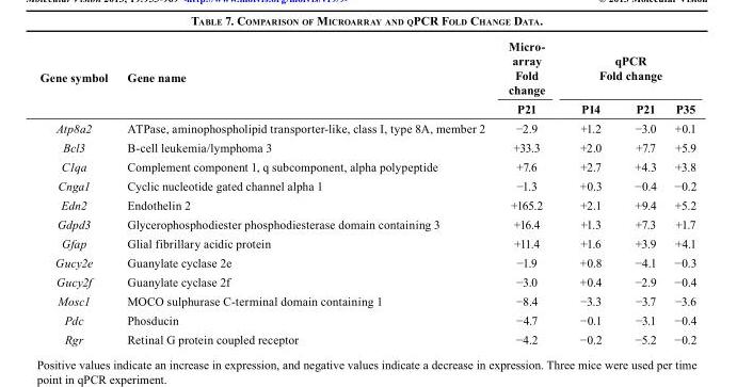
<table><thead><tr><td rowspan="2">Gene symbol</td><td rowspan="2">Gene name</td><td rowspan="2">Micro- array Fold change P21</td><td colspan="3">qPCR Fold change</td></tr><tr><td>P14</td><td>P21</td><td>P35</td></tr></thead><tbody><tr><td>Atp8a2</td><td>ATPase, aminophospholipid transporter-like, class I, type 8A, member 2</td><td>−2.9</td><td>+1.2</td><td>−3.0</td><td>+0.1</td></tr><tr><td>Bcl3</td><td>B-cell leukemia/lymphoma 3</td><td>+33.3</td><td>+2.0</td><td>+7.7</td><td>+5.9</td></tr><tr><td>C1qa</td><td>Complement component 1, q subcomponent, alpha polypeptide</td><td>+7.6</td><td>+2.7</td><td>+4.3</td><td>+3.8</td></tr><tr><td>Cnga1</td><td>Cyclic nucleotide gated channel alpha 1</td><td>−1.3</td><td>+0.3</td><td>−0.4</td><td>−0.2</td></tr><tr><td>Edn2</td><td>Endothelin 2</td><td>+165.2</td><td>+2.1</td><td>+9.4</td><td>+5.2</td></tr><tr><td>Gdpd3</td><td>Glycerophosphodiester phosphodiesterase domain containing 3</td><td>+16.4</td><td>+1.3</td><td>+7.3</td><td>+1.7</td></tr><tr><td>Gfap</td><td>Glial fibrillary acidic protein</td><td>+11.4</td><td>+1.6</td><td>+3.9</td><td>+4.1</td></tr><tr><td>Gucy2e</td><td>Guanylate cyclase 2e</td><td>−1.9</td><td>+0.8</td><td>−4.1</td><td>−0.3</td></tr><tr><td>Gucy2f</td><td>Guanylate cyclase 2f</td><td>−3.0</td><td>+0.4</td><td>−2.9</td><td>−0.4</td></tr><tr><td>Mosc1</td><td>MOCO sulphurase C-terminal domain containing 1</td><td>−8.4</td><td>−3.3</td><td>−3.7</td><td>−3.6</td></tr><tr><td>Pdc</td><td>Phosducin</td><td>−4.7</td><td>−0.1</td><td>−3.1</td><td>−0.4</td></tr><tr><td>Rgr</td><td>Retinal G protein coupled receptor</td><td>−4.2</td><td>−0.2</td><td>−5.2</td><td>−0.2</td></tr></tbody></table>